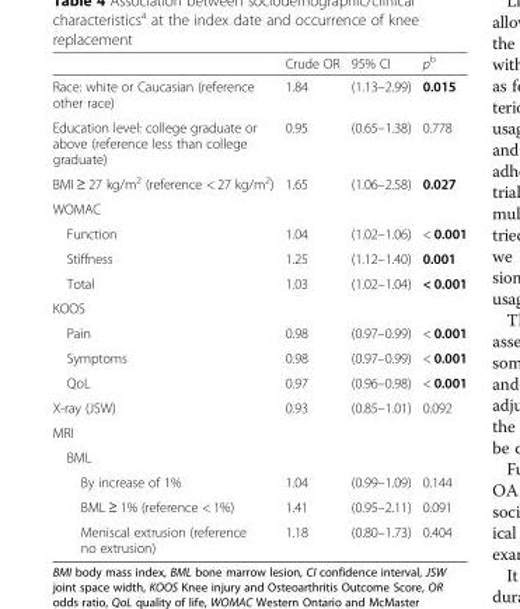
<table><thead><tr><td></td><td>Crude OR</td><td>95% CI</td><td>p<sup>b</sup></td></tr></thead><tbody><tr><td>Race: white or Caucasian (reference other race)</td><td>1.84</td><td>(1.13–2.99)</td><td>0.015</td></tr><tr><td>Education level: college graduate or above (reference less than college graduate)</td><td>0.95</td><td>(0.65–1.38)</td><td>0.778</td></tr><tr><td>BMI ≥ 27 kg/m<sup>2</sup> (reference &lt; 27 kg/m<sup>2</sup>)</td><td>1.65</td><td>(1.06–2.58)</td><td>0.027</td></tr><tr><td colspan="4">WOMAC</td></tr><tr><td>Function</td><td>1.04</td><td>(1.02–1.06)</td><td>&lt; 0.001</td></tr><tr><td>Stiffness</td><td>1.25</td><td>(1.12–1.40)</td><td>0.001</td></tr><tr><td>Total</td><td>1.03</td><td>(1.02–1.04)</td><td>&lt; 0.001</td></tr><tr><td colspan="4">KOOS</td></tr><tr><td>Pain</td><td>0.98</td><td>(0.97–0.99)</td><td>&lt; 0.001</td></tr><tr><td>Symptoms</td><td>0.98</td><td>(0.97–0.99)</td><td>&lt; 0.001</td></tr><tr><td>QoL</td><td>0.97</td><td>(0.96–0.98)</td><td>&lt; 0.001</td></tr><tr><td>X-ray (JSW)</td><td>0.93</td><td>(0.85–1.01)</td><td>0.092</td></tr><tr><td colspan="4">MRI</td></tr><tr><td colspan="4">BML</td></tr><tr><td>By increase of 1%</td><td>1.04</td><td>(0.99–1.09)</td><td>0.144</td></tr><tr><td>BML ≥ 1% (reference &lt; 1%)</td><td>1.41</td><td>(0.95–2.11)</td><td>0.091</td></tr><tr><td>Meniscal extrusion (reference no extrusion)</td><td>1.18</td><td>(0.80–1.73)</td><td>0.404</td></tr></tbody></table>